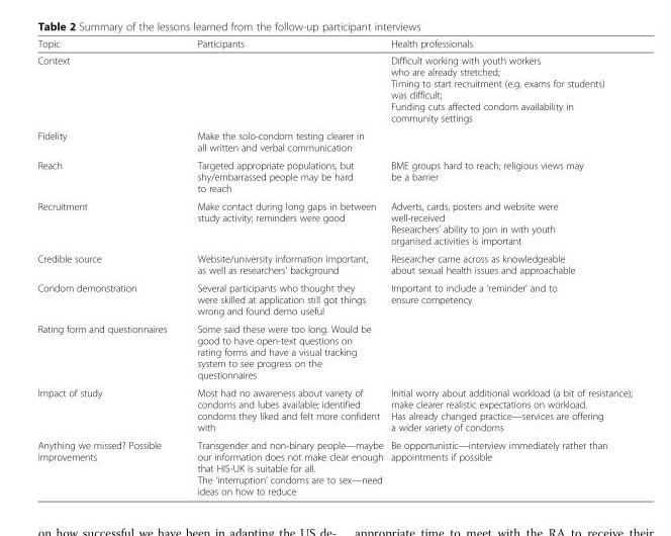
<table><thead><tr><td>Topic</td><td>Participants</td><td>Health professionals</td></tr></thead><tbody><tr><td>Context</td><td></td><td>Difficult working with youth workers who are already stretched; Timing to start recruitment (e.g. exams for students) was difficult; Funding cuts affected condom availability in community settings</td></tr><tr><td>Fidelity</td><td>Make the solo-condom testing clearer in all written and verbal communication</td><td></td></tr><tr><td>Reach</td><td>Targeted appropriate populations, but shy/embarrassed people may be hard to reach</td><td>BME groups hard to reach; religious views may be a barrier</td></tr><tr><td>Recruitment</td><td>Make contact during long gaps in between study activity; reminders were good</td><td>Adverts, cards, posters and website were well-received Researchers’ ability to join in with youth organised activities is important</td></tr><tr><td>Credible source</td><td>Website/university information important, as well as researchers’ background</td><td>Researcher came across as knowledgeable about sexual health issues and approachable</td></tr><tr><td>Condom demonstration</td><td>Several participants who thought they were skilled at application still got things wrong and found demo useful</td><td>Important to include a ‘reminder’ and to ensure competency</td></tr><tr><td>Rating form and questionnaires</td><td>Some said these were too long. Would be good to have open-text questions on rating forms and have a visual tracking system to see progress on the questionnaires</td><td></td></tr><tr><td>Impact of study</td><td>Most had no awareness about variety of condoms and lubes available; identified condoms they liked and felt more confident with</td><td>Initial worry about additional workload (a bit of resistance); make clearer realistic expectations on workload. Has already changed practice—services are offering a wider variety of condoms</td></tr><tr><td>Anything we missed? Possible improvements</td><td>Transgender and non-binary people—maybe our information does not make clear enough that HIS-UK is suitable for all. The ‘interruption’ condoms are to sex—need ideas on how to reduce</td><td>Be opportunistic—interview immediately rather than appointments if possible</td></tr></tbody></table>